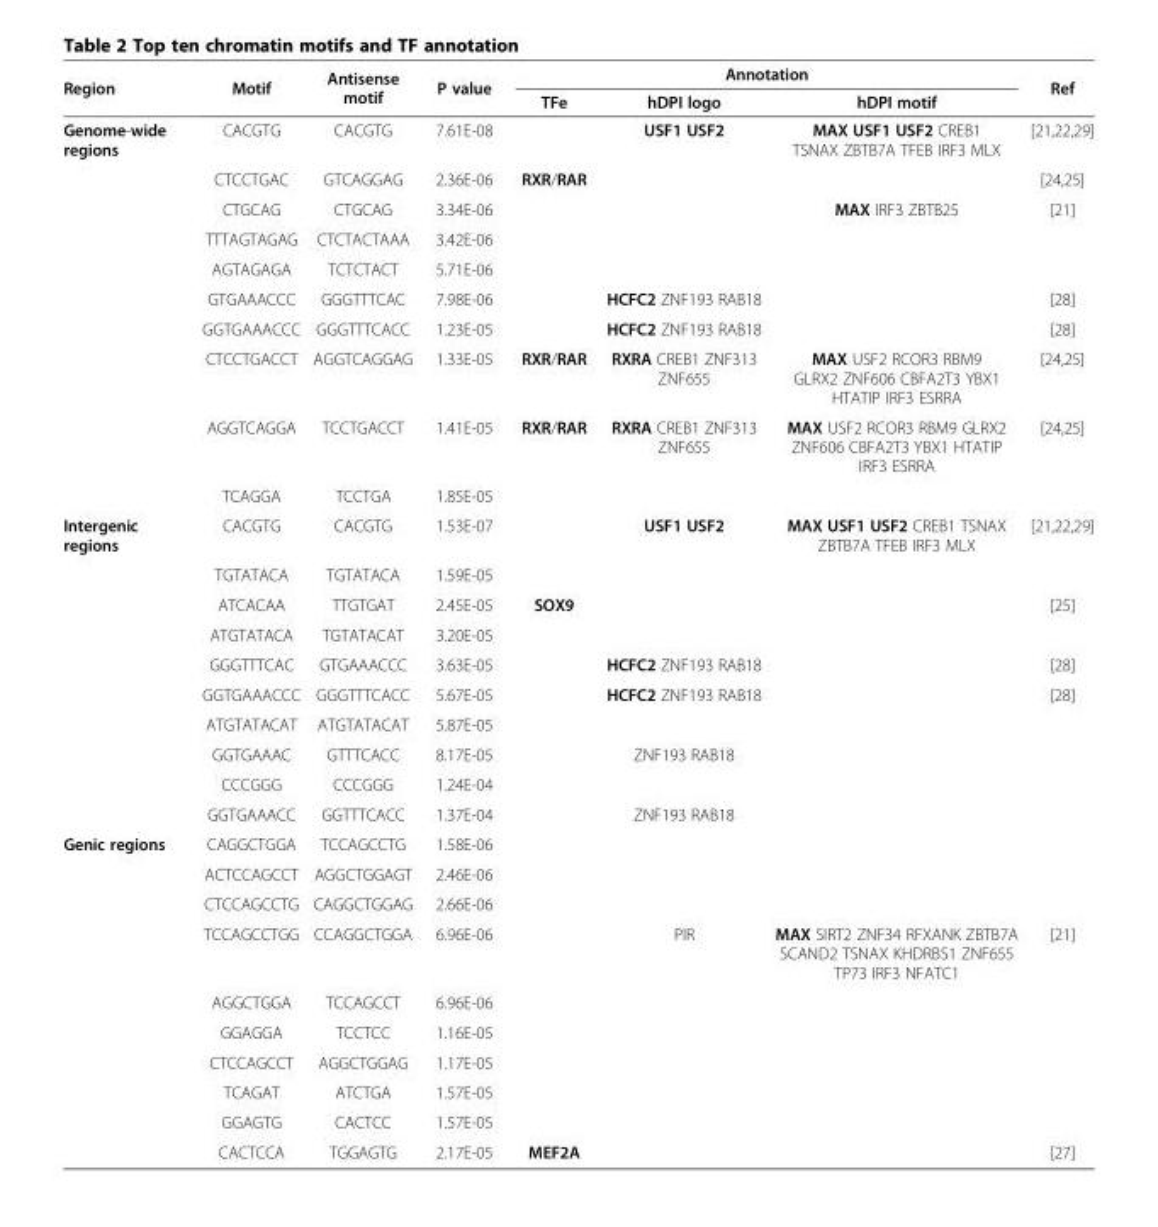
<table><thead><tr><td rowspan="2">Region</td><td rowspan="2">Motif</td><td rowspan="2">Antisense motif</td><td rowspan="2">P value</td><td colspan="3">Annotation</td><td rowspan="2">Ref</td></tr><tr><td>TFe</td><td>hDPI logo</td><td>hDPI motif</td></tr></thead><tbody><tr><td rowspan="10">Genome-wide regions</td><td>CACGTG</td><td>CACGTG</td><td>7.61E-08</td><td></td><td>USF1 USF2</td><td>MAX USF1 USF2 CREB1 TSNAX ZBTB7A TFEB IRF3 MLX</td><td>[21,22,29]</td></tr><tr><td>CTCCTGAC</td><td>GTCAGGAG</td><td>2.36E-06</td><td>RXR/RAR</td><td></td><td></td><td>[24,25]</td></tr><tr><td>CTGCAG</td><td>CTGCAG</td><td>3.34E-06</td><td></td><td></td><td>MAX IRF3 ZBTB25</td><td>[21]</td></tr><tr><td>TTTAGTAGAG</td><td>CTCTACTAAA</td><td>3.42E-06</td><td></td><td></td><td></td><td></td></tr><tr><td>AGTAGAGA</td><td>TCTCTACT</td><td>5.71E-06</td><td></td><td></td><td></td><td></td></tr><tr><td>GTGAAACCC</td><td>GGGTTTCAC</td><td>7.98E-06</td><td></td><td>HCFC2 ZNF193 RAB18</td><td></td><td>[28]</td></tr><tr><td>GGTGAAACCC</td><td>GGGTTTCACC</td><td>1.23E-05</td><td></td><td>HCFC2 ZNF193 RAB18</td><td></td><td>[28]</td></tr><tr><td>CTCCTGACCT</td><td>AGGTCAGGAG</td><td>1.33E-05</td><td>RXR/RAR</td><td>RXRA CREB1 ZNF313 ZNF655</td><td>MAX USF2 RCOR3 RBM9 GLRX2 ZNF606 CBFA2T3 YBX1 HTATIP IRF3 ESRRA</td><td>[24,25]</td></tr><tr><td>AGGTCAGGA</td><td>TCCTGACCT</td><td>1.41E-05</td><td>RXR/RAR</td><td>RXRA CREB1 ZNF313 ZNF655</td><td>MAX USF2 RCOR3 RBM9 GLRX2 ZNF606 CBFA2T3 YBX1 HTATIP IRF3 ESRRA</td><td>[24,25]</td></tr><tr><td>TCAGGA</td><td>TCCTGA</td><td>1.85E-05</td><td></td><td></td><td></td><td></td></tr><tr><td rowspan="10">Intergenic regions</td><td>CACGTG</td><td>CACGTG</td><td>1.53E-07</td><td></td><td>USF1 USF2</td><td>MAX USF1 USF2 CREB1 TSNAX ZBTB7A TFEB IRF3 MLX</td><td>[21,22,29]</td></tr><tr><td>TGTATACA</td><td>TGTATACA</td><td>1.59E-05</td><td></td><td></td><td></td><td></td></tr><tr><td>ATCACAA</td><td>TTGTGAT</td><td>2.45E-05</td><td>SOX9</td><td></td><td></td><td>[25]</td></tr><tr><td>ATGTATACA</td><td>TGTATACAT</td><td>3.20E-05</td><td></td><td></td><td></td><td></td></tr><tr><td>GGGTTTCAC</td><td>GTGAAACCC</td><td>3.63E-05</td><td></td><td>HCFC2 ZNF193 RAB18</td><td></td><td>[28]</td></tr><tr><td>GGTGAAACCC</td><td>GGGTTTCACC</td><td>5.67E-05</td><td></td><td>HCFC2 ZNF193 RAB18</td><td></td><td>[28]</td></tr><tr><td>ATGTATACAT</td><td>ATGTATACAT</td><td>5.87E-05</td><td></td><td></td><td></td><td></td></tr><tr><td>GGTGAAAC</td><td>GTTTCACC</td><td>8.17E-05</td><td></td><td>ZNF193 RAB18</td><td></td><td></td></tr><tr><td>CCCGGG</td><td>CCCGGG</td><td>1.24E-04</td><td></td><td></td><td></td><td></td></tr><tr><td>GGTGAAACC</td><td>GGTTTCACC</td><td>1.37E-04</td><td></td><td>ZNF193 RAB18</td><td></td><td></td></tr><tr><td rowspan="10">Genic regions</td><td>CAGGCTGGA</td><td>TCCAGCCTG</td><td>1.58E-06</td><td></td><td></td><td></td><td></td></tr><tr><td>ACTCCAGCCT</td><td>AGGCTGGAGT</td><td>2.46E-06</td><td></td><td></td><td></td><td></td></tr><tr><td>CTCCAGCCTG</td><td>CAGGCTGGAG</td><td>2.66E-06</td><td></td><td></td><td></td><td></td></tr><tr><td>TCCAGCCTGG</td><td>CCAGGCTGGA</td><td>6.96E-06</td><td></td><td>PIR</td><td>MAX SIRT2 ZNF34 RFXANK ZBTB7A SCAND2 TSNAX KHDRBS1 ZNF655 TP73 IRF3 NFATC1</td><td>[21]</td></tr><tr><td>AGGCTGGA</td><td>TCCAGCCT</td><td>6.96E-06</td><td></td><td></td><td></td><td></td></tr><tr><td>GGAGGA</td><td>TCCTCC</td><td>1.16E-05</td><td></td><td></td><td></td><td></td></tr><tr><td>CTCCAGCCT</td><td>AGGCTGGAG</td><td>1.17E-05</td><td></td><td></td><td></td><td></td></tr><tr><td>TCAGAT</td><td>ATCTGA</td><td>1.57E-05</td><td></td><td></td><td></td><td></td></tr><tr><td>GGAGTG</td><td>CACTCC</td><td>1.57E-05</td><td></td><td></td><td></td><td></td></tr><tr><td>CACTCCA</td><td>TGGAGTG</td><td>2.17E-05</td><td>MEF2A</td><td></td><td></td><td>[27]</td></tr></tbody></table>